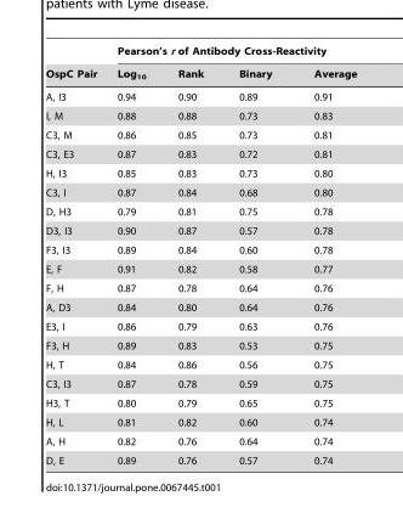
<table><thead><tr><td rowspan="2">OspC Pair</td><td colspan="4">Pearson’s r of Antibody Cross-Reactivity</td></tr><tr><td>Log<sub>10</sub></td><td>Rank</td><td>Binary</td><td>Average</td></tr></thead><tbody><tr><td>A, I3</td><td>0.94</td><td>0.90</td><td>0.89</td><td>0.91</td></tr><tr><td>I, M</td><td>0.88</td><td>0.88</td><td>0.73</td><td>0.83</td></tr><tr><td>C3, M</td><td>0.86</td><td>0.85</td><td>0.73</td><td>0.81</td></tr><tr><td>C3, E3</td><td>0.87</td><td>0.83</td><td>0.72</td><td>0.81</td></tr><tr><td>H, I3</td><td>0.85</td><td>0.83</td><td>0.73</td><td>0.80</td></tr><tr><td>C3, I</td><td>0.87</td><td>0.84</td><td>0.68</td><td>0.80</td></tr><tr><td>D, H3</td><td>0.79</td><td>0.81</td><td>0.75</td><td>0.78</td></tr><tr><td>D3, I3</td><td>0.90</td><td>0.87</td><td>0.57</td><td>0.78</td></tr><tr><td>F3, I3</td><td>0.89</td><td>0.84</td><td>0.60</td><td>0.78</td></tr><tr><td>E, F</td><td>0.91</td><td>0.82</td><td>0.58</td><td>0.77</td></tr><tr><td>F, H</td><td>0.87</td><td>0.78</td><td>0.64</td><td>0.76</td></tr><tr><td>A, D3</td><td>0.84</td><td>0.80</td><td>0.64</td><td>0.76</td></tr><tr><td>E3, I</td><td>0.86</td><td>0.79</td><td>0.63</td><td>0.76</td></tr><tr><td>F3, H</td><td>0.89</td><td>0.83</td><td>0.53</td><td>0.75</td></tr><tr><td>H, T</td><td>0.84</td><td>0.86</td><td>0.56</td><td>0.75</td></tr><tr><td>C3, I3</td><td>0.87</td><td>0.78</td><td>0.59</td><td>0.75</td></tr><tr><td>H3, T</td><td>0.80</td><td>0.79</td><td>0.65</td><td>0.75</td></tr><tr><td>H, L</td><td>0.81</td><td>0.82</td><td>0.60</td><td>0.74</td></tr><tr><td>A, H</td><td>0.82</td><td>0.76</td><td>0.64</td><td>0.74</td></tr><tr><td>D, E</td><td>0.89</td><td>0.76</td><td>0.57</td><td>0.74</td></tr></tbody></table>